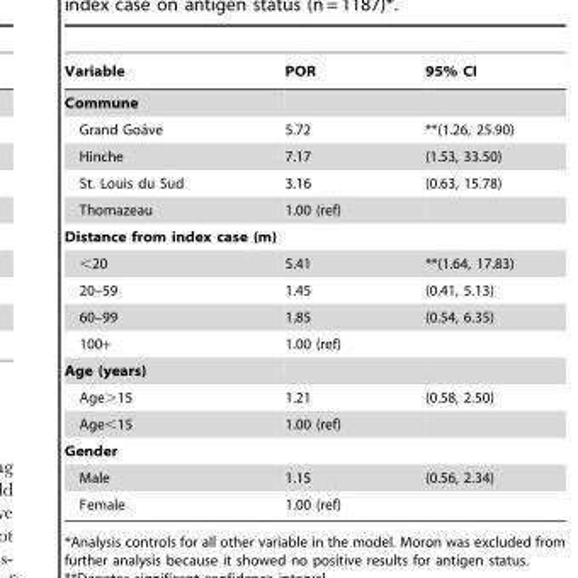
<table><thead><tr><td>Variable</td><td>POR</td><td>95% CI</td></tr></thead><tbody><tr><td colspan="3">Commune</td></tr><tr><td>Grand Goaˆve</td><td>5.72</td><td>**(1.26, 25.90)</td></tr><tr><td>Hinche</td><td>7.17</td><td>(1.53, 33.50)</td></tr><tr><td>St. Louis du Sud</td><td>3.16</td><td>(0.63, 15.78)</td></tr><tr><td>Thomazeau</td><td>1.00 (ref)</td><td></td></tr><tr><td colspan="3">Distance from index case (m)</td></tr><tr><td>&lt;20</td><td>5.41</td><td>**(1.64, 17.83)</td></tr><tr><td>20–59</td><td>1.45</td><td>(0.41, 5.13)</td></tr><tr><td>60–99</td><td>1.85</td><td>(0.54, 6.35)</td></tr><tr><td>100+</td><td>1.00 (ref)</td><td></td></tr><tr><td colspan="3">Age (years)</td></tr><tr><td>Age&gt;15</td><td>1.21</td><td>(0.58, 2.50)</td></tr><tr><td>Age&lt;15</td><td>1.00 (ref)</td><td></td></tr><tr><td colspan="3">Gender</td></tr><tr><td>Male</td><td>1.15</td><td>(0.56, 2.34)</td></tr><tr><td>Female</td><td>1.00 (ref)</td><td></td></tr></tbody></table>